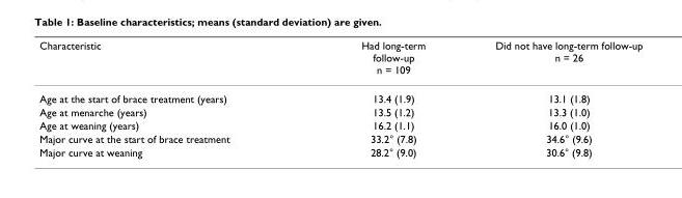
<table><thead><tr><td>Characteristic</td><td>Had long-term follow-up n = 109</td><td>Did not have long-term follow-up n = 26</td></tr></thead><tbody><tr><td>Age at the start of brace treatment (years)</td><td>13.4 (1.9)</td><td>13.1 (1.8)</td></tr><tr><td>Age at menarche (years)</td><td>13.5 (1.2)</td><td>13.3 (1.0)</td></tr><tr><td>Age at weaning (years)</td><td>16.2 (1.1)</td><td>16.0 (1.0)</td></tr><tr><td>Major curve at the start of brace treatment</td><td>33.2° (7.8)</td><td>34.6° (9.6)</td></tr><tr><td>Major curve at weaning</td><td>28.2° (9.0)</td><td>30.6° (9.8)</td></tr></tbody></table>